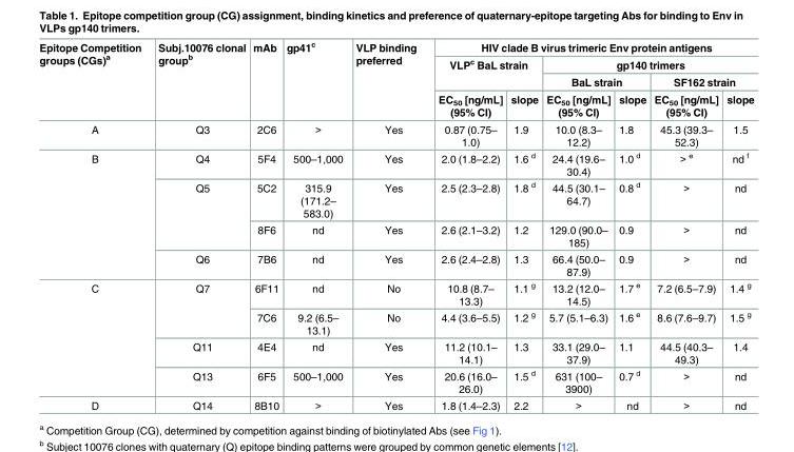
<table><thead><tr><td rowspan="4">Epitope Competition groups (CGs)<sup>a</sup></td><td rowspan="4">Subj.10076 clonal group<sup>b</sup></td><td rowspan="4">mAb</td><td rowspan="4">gp41<sup>c</sup></td><td rowspan="4">VLP binding preferred</td><td colspan="6">HIV clade B virus trimeric Env protein antigens</td></tr><tr><td rowspan="2" colspan="2">VLP<sup>c</sup> BaL strain</td><td colspan="4">gp140 trimers</td></tr><tr><td colspan="2">BaL strain</td><td colspan="2">SF162 strain</td></tr><tr><td>EC<sub>50</sub> [ng/mL] (95% CI)</td><td>slope</td><td>EC<sub>50</sub> [ng/mL] (95% CI)</td><td>slope</td><td>EC<sub>50</sub> [ng/mL] (95% CI)</td><td>slope</td></tr></thead><tbody><tr><td>A</td><td>Q3</td><td>2C6</td><td>&gt;</td><td>Yes</td><td>0.87 (0.75– 1.0)</td><td>1.9</td><td>10.0 (8.3– 12.2)</td><td>1.8</td><td>45.3 (39.3– 52.3)</td><td>1.5</td></tr><tr><td rowspan="4">B</td><td>Q4</td><td>5F4</td><td>500–1,000</td><td>Yes</td><td>2.0 (1.8–2.2)</td><td>1.6 <sup>d</sup></td><td>24.4 (19.6– 30.4)</td><td>1.0 <sup>d</sup></td><td>&gt; <sup>e</sup></td><td>nd <sup>f</sup></td></tr><tr><td rowspan="2">Q5</td><td>5C2</td><td>315.9 (171.2– 583.0)</td><td>Yes</td><td>2.5 (2.3–2.8)</td><td>1.8 <sup>d</sup></td><td>44.5 (30.1– 64.7)</td><td>0.8 <sup>d</sup></td><td>&gt;</td><td>nd</td></tr><tr><td>8F6</td><td>nd</td><td>Yes</td><td>2.6 (2.1–3.2)</td><td>1.2</td><td>129.0 (90.0– 185)</td><td>0.9</td><td>&gt;</td><td>nd</td></tr><tr><td>Q6</td><td>7B6</td><td>nd</td><td>Yes</td><td>2.6 (2.4–2.8)</td><td>1.3</td><td>66.4 (50.0– 87.9)</td><td>0.9</td><td>&gt;</td><td>nd</td></tr><tr><td rowspan="4">C</td><td rowspan="2">Q7</td><td>6F11</td><td>nd</td><td>No</td><td>10.8 (8.7– 13.3)</td><td>1.1 <sup>g</sup></td><td>13.2 (12.0– 14.5)</td><td>1.7 <sup>e</sup></td><td>7.2 (6.5–7.9)</td><td>1.4 <sup>g</sup></td></tr><tr><td>7C6</td><td>9.2 (6.5– 13.1)</td><td>No</td><td>4.4 (3.6–5.5)</td><td>1.2 <sup>g</sup></td><td>5.7 (5.1–6.3)</td><td>1.6 <sup>e</sup></td><td>8.6 (7.6–9.7)</td><td>1.5 <sup>g</sup></td></tr><tr><td>Q11</td><td>4E4</td><td>nd</td><td>Yes</td><td>11.2 (10.1– 14.1)</td><td>1.3</td><td>33.1 (29.0– 37.9)</td><td>1.1</td><td>44.5 (40.3– 49.3)</td><td>1.4</td></tr><tr><td>Q13</td><td>6F5</td><td>500–1,000</td><td>Yes</td><td>20.6 (16.0– 26.0)</td><td>1.5 <sup>d</sup></td><td>631 (100– 3900)</td><td>0.7 <sup>d</sup></td><td>&gt;</td><td>nd</td></tr><tr><td>D</td><td>Q14</td><td>8B10</td><td>&gt;</td><td>Yes</td><td>1.8 (1.4–2.3)</td><td>2.2</td><td>&gt;</td><td>nd</td><td>&gt;</td><td>nd</td></tr></tbody></table>